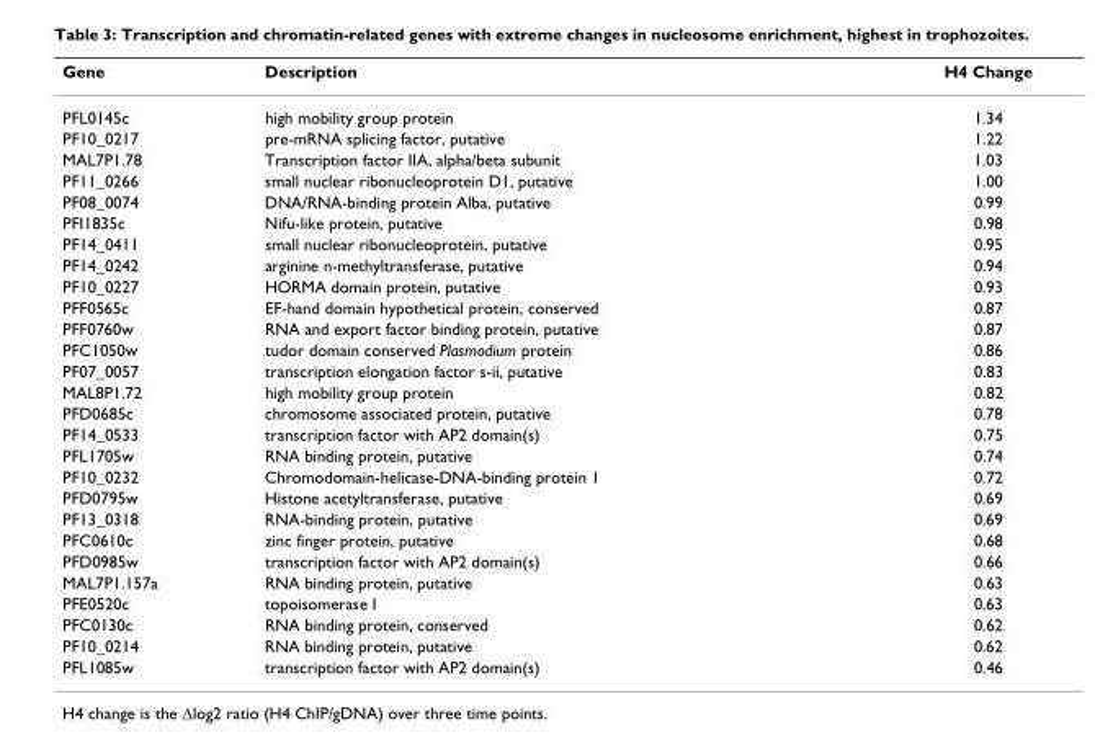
<table><thead><tr><td>Gene</td><td>Description</td><td>H4 Change</td></tr></thead><tbody><tr><td>PFL0145c</td><td>high mobility group protein</td><td>1.34</td></tr><tr><td>PF10_0217</td><td>pre-mRNA splicing factor, putative</td><td>1.22</td></tr><tr><td>MAL7P1.78</td><td>Transcription factor IIA, alpha/beta subunit</td><td>1.03</td></tr><tr><td>PF11_0266</td><td>small nuclear ribonucleoprotein D1, putative</td><td>1.00</td></tr><tr><td>PF08_0074</td><td>DNA/RNA-binding protein Alba, putative</td><td>0.99</td></tr><tr><td>PFI1835c</td><td>Nifu-like protein, putative</td><td>0.98</td></tr><tr><td>PF14_0411</td><td>small nuclear ribonucleoprotein, putative</td><td>0.95</td></tr><tr><td>PF14_0242</td><td>arginine n-methyltransferase, putative</td><td>0.94</td></tr><tr><td>PF10_0227</td><td>HORMA domain protein, putative</td><td>0.93</td></tr><tr><td>PFF0565c</td><td>EF-hand domain hypothetical protein, conserved</td><td>0.87</td></tr><tr><td>PFF0760w</td><td>RNA and export factor binding protein, putative</td><td>0.87</td></tr><tr><td>PFC1050w</td><td>tudor domain conserved Plasmodium protein</td><td>0.86</td></tr><tr><td>PF07_0057</td><td>transcription elongation factor s-ii, putative</td><td>0.83</td></tr><tr><td>MAL8P1.72</td><td>high mobility group protein</td><td>0.82</td></tr><tr><td>PFD0685c</td><td>chromosome associated protein, putative</td><td>0.78</td></tr><tr><td>PF14_0533</td><td>transcription factor with AP2 domain(s)</td><td>0.75</td></tr><tr><td>PFL1705w</td><td>RNA binding protein, putative</td><td>0.74</td></tr><tr><td>PF10_0232</td><td>Chromodomain-helicase-DNA-binding protein 1</td><td>0.72</td></tr><tr><td>PFD0795w</td><td>Histone acetyltransferase, putative</td><td>0.69</td></tr><tr><td>PF13_0318</td><td>RNA-binding protein, putative</td><td>0.69</td></tr><tr><td>PFC0610c</td><td>zinc finger protein, putative</td><td>0.68</td></tr><tr><td>PFD0985w</td><td>transcription factor with AP2 domain(s)</td><td>0.66</td></tr><tr><td>MAL7P1.157a</td><td>RNA binding protein, putative</td><td>0.63</td></tr><tr><td>PFE0520c</td><td>topoisomerase I</td><td>0.63</td></tr><tr><td>PFC0130c</td><td>RNA binding protein, conserved</td><td>0.62</td></tr><tr><td>PF10_0214</td><td>RNA binding protein, putative</td><td>0.62</td></tr><tr><td>PFL1085w</td><td>transcription factor with AP2 domain(s)</td><td>0.46</td></tr></tbody></table>